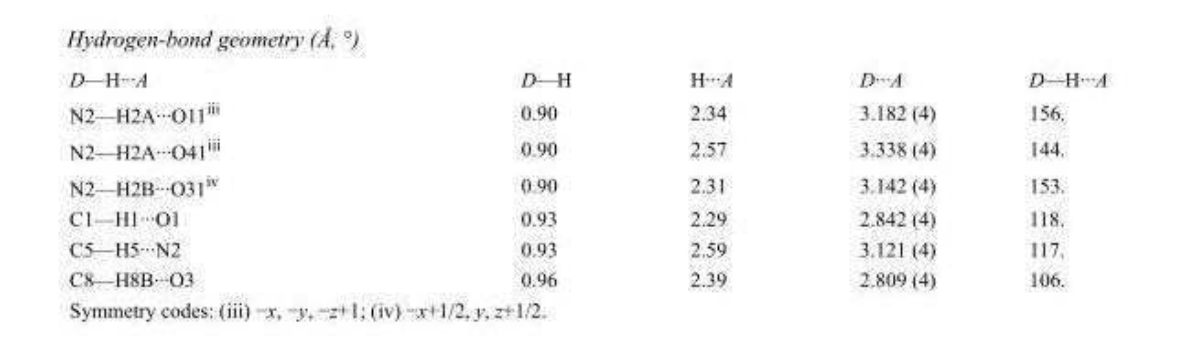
<table><tbody><tr><td>D—H···A</td><td>D—H</td><td>H···A</td><td>D···A</td><td>D—H···A</td></tr><tr><td>N2—H2A···O11<sup>iii</sup></td><td>0.90</td><td>2.34</td><td>3.182 (4)</td><td>156.</td></tr><tr><td>N2—H2A···O41<sup>iii</sup></td><td>0.90</td><td>2.57</td><td>3.338 (4)</td><td>144.</td></tr><tr><td>N2—H2B···O31<sup>iv</sup></td><td>0.90</td><td>2.31</td><td>3.142 (4)</td><td>153.</td></tr><tr><td>C1—H1···O1</td><td>0.93</td><td>2.29</td><td>2.842 (4)</td><td>118.</td></tr><tr><td>C5—H5···N2</td><td>0.93</td><td>2.59</td><td>3.121 (4)</td><td>117.</td></tr><tr><td>C8—H8B···O3</td><td>0.96</td><td>2.39</td><td>2.809 (4)</td><td>106.</td></tr></tbody></table>